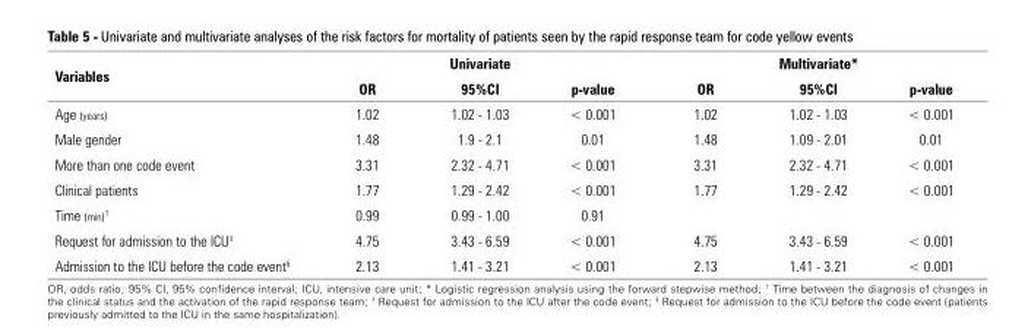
<table><thead><tr><td rowspan="2">Variables</td><td colspan="3">Univariate</td><td colspan="3">Multivariate*</td></tr><tr><td>OR</td><td>95%CI</td><td>p-value</td><td>OR</td><td>95%CI</td><td>p-value</td></tr></thead><tbody><tr><td>Age (years)</td><td>1.02</td><td>1.02 - 1.03</td><td>&lt; 0.001</td><td>1.02</td><td>1.02 - 1.03</td><td>&lt; 0.001</td></tr><tr><td>Male gender</td><td>1.48</td><td>1.9 - 2.1</td><td>0.01</td><td>1.48</td><td>1.09 - 2.01</td><td>0.01</td></tr><tr><td>More than one code event</td><td>3.31</td><td>2.32 - 4.71</td><td>&lt; 0.001</td><td>3.31</td><td>2.32 - 4.71</td><td>&lt; 0.001</td></tr><tr><td>Clinical patients</td><td>1.77</td><td>1.29 - 2.42</td><td>&lt; 0.001</td><td>1.77</td><td>1.29 - 2.42</td><td>&lt; 0.001</td></tr><tr><td>Time (min)†</td><td>0.99</td><td>0.99 - 1.00</td><td>0.91</td><td></td><td></td><td></td></tr><tr><td>Request for admission to the ICU‡</td><td>4.75</td><td>3.43 - 6.59</td><td>&lt; 0.001</td><td>4.75</td><td>3.43 - 6.59</td><td>&lt; 0.001</td></tr><tr><td>Admission to the ICU before the code event§</td><td>2.13</td><td>1.41 - 3.21</td><td>&lt; 0.001</td><td>2.13</td><td>1.41 - 3.21</td><td>&lt; 0.001</td></tr></tbody></table>